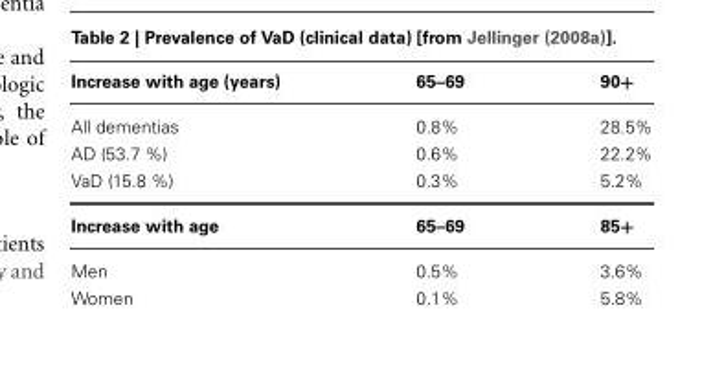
<table><thead><tr><td>Increase with age (years)</td><td>65–69</td><td>90+</td></tr></thead><tbody><tr><td>All dementias</td><td>0.8%</td><td>28.5%</td></tr><tr><td>AD (53.7 %)</td><td>0.6%</td><td>22.2%</td></tr><tr><td>VaD (15.8 %)</td><td>0.3%</td><td>5.2%</td></tr><tr><td>Increase with age</td><td>65–69</td><td>85+</td></tr><tr><td>Men</td><td>0.5%</td><td>3.6%</td></tr><tr><td>Women</td><td>0.1%</td><td>5.8%</td></tr></tbody></table>